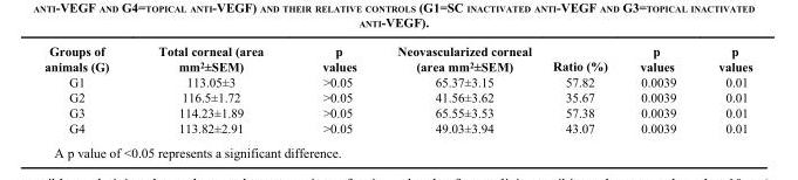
<table><thead><tr><td>Groups of animals (G)</td><td>Total corneal (area mm<sup>2</sup>±SEM)</td><td>p values</td><td>Neovascularized corneal (area mm<sup>2</sup>±SEM)</td><td>Ratio (%)</td><td>p values</td><td>p values</td></tr></thead><tbody><tr><td>G1</td><td>113.05±3</td><td>&gt;0.05</td><td>65.37±3.15</td><td>57.82</td><td>0.0039</td><td>0.01</td></tr><tr><td>G2</td><td>116.5±1.72</td><td>&gt;0.05</td><td>41.56±3.62</td><td>35.67</td><td>0.0039</td><td>0.01</td></tr><tr><td>G3</td><td>114.23±1.89</td><td>&gt;0.05</td><td>65.55±3.53</td><td>57.38</td><td>0.0039</td><td>0.01</td></tr><tr><td>G4</td><td>113.82±2.91</td><td>&gt;0.05</td><td>49.03±3.94</td><td>43.07</td><td>0.0039</td><td>0.01</td></tr></tbody></table>